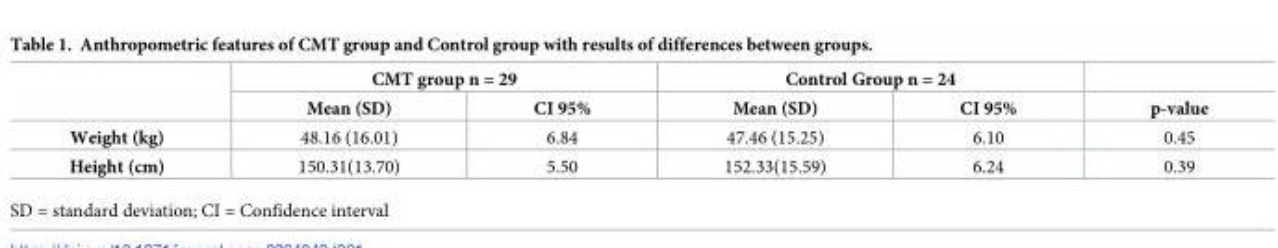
<table><thead><tr><td rowspan="2"></td><td colspan="2">CMT group n = 29</td><td colspan="2">Control Group n = 24</td><td rowspan="2">p-value</td></tr><tr><td>Mean (SD)</td><td>CI 95%</td><td>Mean (SD)</td><td>CI 95%</td></tr></thead><tbody><tr><td>Weight (kg)</td><td>48.16 (16.01)</td><td>6.84</td><td>47.46 (15.25)</td><td>6.10</td><td>0.45</td></tr><tr><td>Height (cm)</td><td>150.31(13.70)</td><td>5.50</td><td>152.33(15.59)</td><td>6.24</td><td>0.39</td></tr></tbody></table>